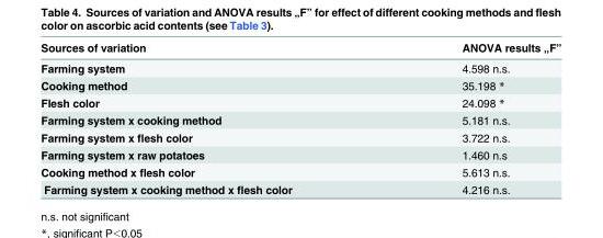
<table><thead><tr><td>Sources of variation</td><td>ANOVA results „F”</td></tr></thead><tbody><tr><td>Farming system</td><td>4.598 n.s.</td></tr><tr><td>Cooking method</td><td>35.198 *</td></tr><tr><td>Flesh color</td><td>24.098 *</td></tr><tr><td>Farming system x cooking method</td><td>5.181 n.s.</td></tr><tr><td>Farming system x flesh color</td><td>3.722 n.s.</td></tr><tr><td>Farming system x raw potatoes</td><td>1.460 n.s</td></tr><tr><td>Cooking method x flesh color</td><td>5.613 n.s.</td></tr><tr><td>Farming system x cooking method x flesh color</td><td>4.216 n.s.</td></tr></tbody></table>